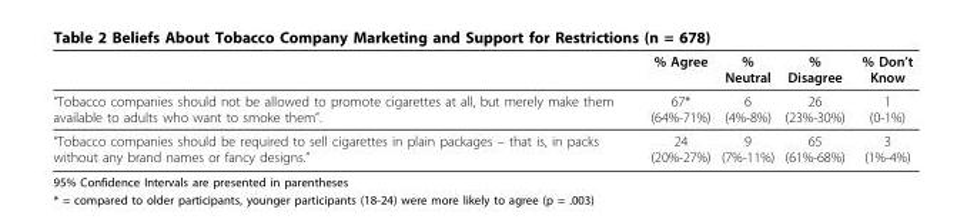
<table><thead><tr><td></td><td>% Agree</td><td>% Neutral</td><td>% Disagree</td><td>% Don’t Know</td></tr></thead><tbody><tr><td>“Tobacco companies should not be allowed to promote cigarettes at all, but merely make them available to adults who want to smoke them”.</td><td>67* (64%-71%)</td><td>6 (4%-8%)</td><td>26 (23%-30%)</td><td>1 (0-1%)</td></tr><tr><td>“Tobacco companies should be required to sell cigarettes in plain packages – that is, in packs without any brand names or fancy designs.”</td><td>24 (20%-27%)</td><td>9 (7%-11%)</td><td>65 (61%-68%)</td><td>3 (1%-4%)</td></tr></tbody></table>